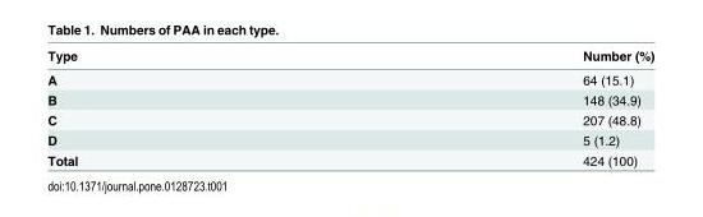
<table><thead><tr><td>Type</td><td>Number (%)</td></tr></thead><tbody><tr><td>A</td><td>64 (15.1)</td></tr><tr><td>B</td><td>148 (34.9)</td></tr><tr><td>C</td><td>207 (48.8)</td></tr><tr><td>D</td><td>5 (1.2)</td></tr><tr><td>Total</td><td>424 (100)</td></tr></tbody></table>